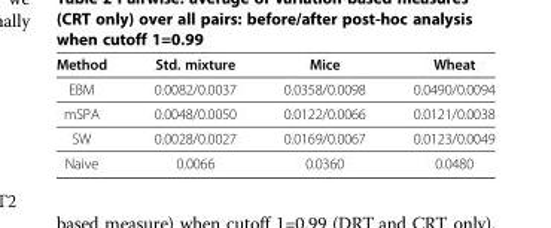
<table><thead><tr><td>Method</td><td>Std. mixture</td><td>Mice</td><td>Wheat</td></tr></thead><tbody><tr><td>EBM</td><td>0.0082/0.0037</td><td>0.0358/0.0098</td><td>0.0490/0.0094</td></tr><tr><td>mSPA</td><td>0.0048/0.0050</td><td>0.0122/0.0066</td><td>0.0121/0.0038</td></tr><tr><td>SW</td><td>0.0028/0.0027</td><td>0.0169/0.0067</td><td>0.0123/0.0049</td></tr><tr><td>Naive</td><td>0.0066</td><td>0.0360</td><td>0.0480</td></tr></tbody></table>